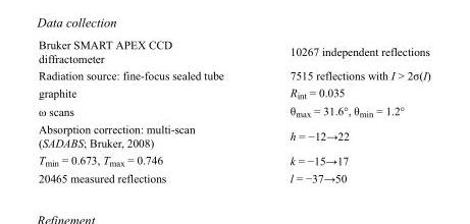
<table><tbody><tr><td>Bruker SMART APEX CCD diffractometer</td><td>10267 independent reflections</td></tr><tr><td>Radiation source: fine-focus sealed tube</td><td>7515 reflections with I &gt; 2σ(I)</td></tr><tr><td>graphite</td><td>R<sub>int</sub> = 0.035</td></tr><tr><td>ω scans</td><td>θ<sub>max</sub> = 31.6°, θ<sub>min</sub> = 1.2°</td></tr><tr><td>Absorption correction: multi-scan (SADABS; Bruker, 2008)</td><td>h = −12→22</td></tr><tr><td>T<sub>min</sub> = 0.673, T<sub>max</sub> = 0.746</td><td>k = −15→17</td></tr><tr><td>20465 measured reflections</td><td>l = −37→50</td></tr></tbody></table>